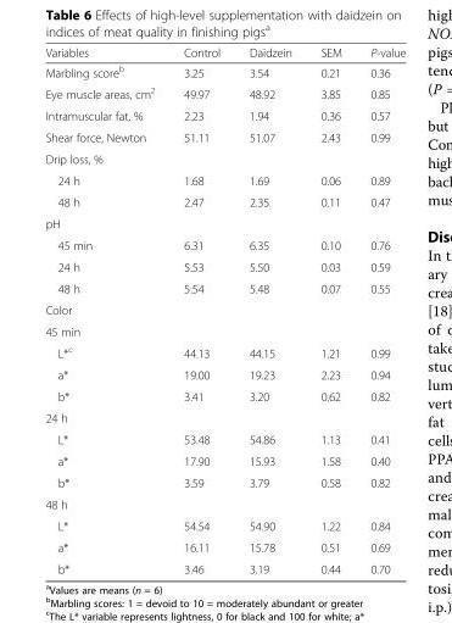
<table><thead><tr><td>Variables</td><td>Control</td><td>Daidzein</td><td>SEM</td><td>P-value</td></tr></thead><tbody><tr><td>Marbling score<sup>b</sup></td><td>3.25</td><td>3.54</td><td>0.21</td><td>0.36</td></tr><tr><td>Eye muscle areas, cm<sup>2</sup></td><td>49.97</td><td>48.92</td><td>3.85</td><td>0.85</td></tr><tr><td>Intramuscular fat, %</td><td>2.23</td><td>1.94</td><td>0.36</td><td>0.57</td></tr><tr><td>Shear force, Newton</td><td>51.11</td><td>51.07</td><td>2.43</td><td>0.99</td></tr><tr><td colspan="5">Drip loss, %</td></tr><tr><td>24 h</td><td>1.68</td><td>1.69</td><td>0.06</td><td>0.89</td></tr><tr><td>48 h</td><td>2.47</td><td>2.35</td><td>0.11</td><td>0.47</td></tr><tr><td colspan="5">pH</td></tr><tr><td>45 min</td><td>6.31</td><td>6.35</td><td>0.10</td><td>0.76</td></tr><tr><td>24 h</td><td>5.53</td><td>5.50</td><td>0.03</td><td>0.59</td></tr><tr><td>48 h</td><td>5.54</td><td>5.48</td><td>0.07</td><td>0.55</td></tr><tr><td colspan="5">Color</td></tr><tr><td colspan="5">45 min</td></tr><tr><td>L*<sup>c</sup></td><td>44.13</td><td>44.15</td><td>1.21</td><td>0.99</td></tr><tr><td>a*</td><td>19.00</td><td>19.23</td><td>2.23</td><td>0.94</td></tr><tr><td>b*</td><td>3.41</td><td>3.20</td><td>0.62</td><td>0.82</td></tr><tr><td colspan="5">24 h</td></tr><tr><td>L*</td><td>53.48</td><td>54.86</td><td>1.13</td><td>0.41</td></tr><tr><td>a*</td><td>17.90</td><td>15.93</td><td>1.58</td><td>0.40</td></tr><tr><td>b*</td><td>3.59</td><td>3.79</td><td>0.58</td><td>0.82</td></tr><tr><td colspan="5">48 h</td></tr><tr><td>L*</td><td>54.54</td><td>54.90</td><td>1.22</td><td>0.84</td></tr><tr><td>a*</td><td>16.11</td><td>15.78</td><td>0.51</td><td>0.69</td></tr><tr><td>b*</td><td>3.46</td><td>3.19</td><td>0.44</td><td>0.70</td></tr></tbody></table>